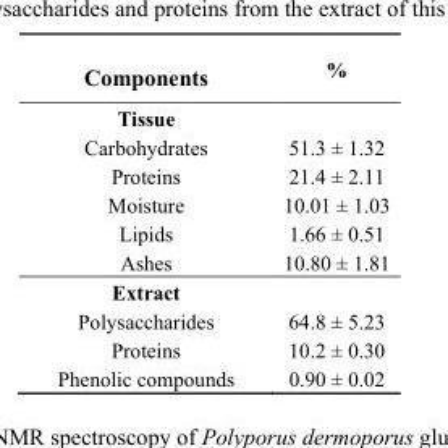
<table><thead><tr><td>Components</td><td>%</td></tr></thead><tbody><tr><td colspan="2">Tissue</td></tr><tr><td>Carbohydrates</td><td>51.3 ± 1.32</td></tr><tr><td>Proteins</td><td>21.4 ± 2.11</td></tr><tr><td>Moisture</td><td>10.01 ± 1.03</td></tr><tr><td>Lipids</td><td>1.66 ± 0.51</td></tr><tr><td>Ashes</td><td>10.80 ± 1.81</td></tr><tr><td colspan="2">Extract</td></tr><tr><td>Polysaccharides</td><td>64.8 ± 5.23</td></tr><tr><td>Proteins</td><td>10.2 ± 0.30</td></tr><tr><td>Phenolic compounds</td><td>0.90 ± 0.02</td></tr></tbody></table>